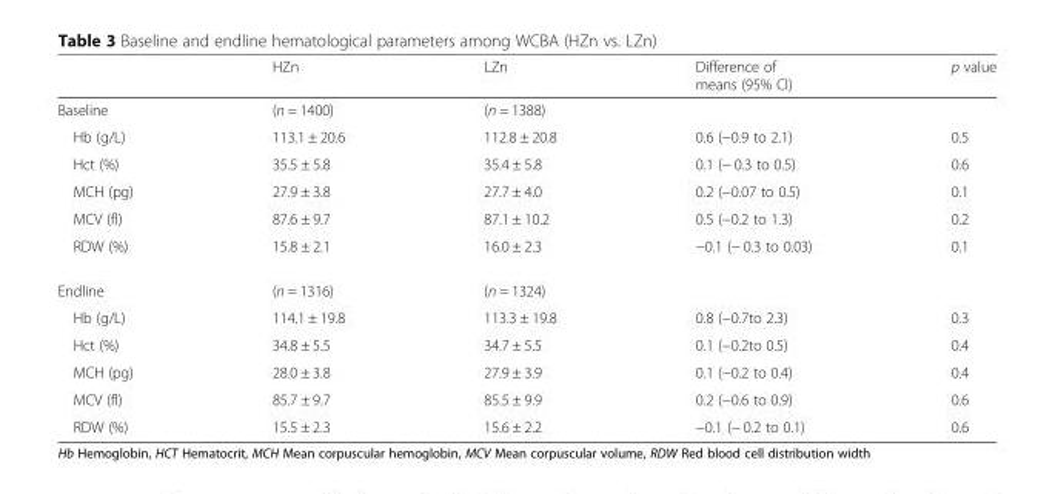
<table><thead><tr><td></td><td>HZn</td><td>LZn</td><td>Difference of means (95% CI)</td><td>p value</td></tr></thead><tbody><tr><td>Baseline</td><td>(n = 1400)</td><td>(n = 1388)</td><td></td><td></td></tr><tr><td>Hb (g/L)</td><td>113.1 ± 20.6</td><td>112.8 ± 20.8</td><td>0.6 (−0.9 to 2.1)</td><td>0.5</td></tr><tr><td>Hct (%)</td><td>35.5 ± 5.8</td><td>35.4 ± 5.8</td><td>0.1 (− 0.3 to 0.5)</td><td>0.6</td></tr><tr><td>MCH (pg)</td><td>27.9 ± 3.8</td><td>27.7 ± 4.0</td><td>0.2 (−0.07 to 0.5)</td><td>0.1</td></tr><tr><td>MCV (fl)</td><td>87.6 ± 9.7</td><td>87.1 ± 10.2</td><td>0.5 (−0.2 to 1.3)</td><td>0.2</td></tr><tr><td>RDW (%)</td><td>15.8 ± 2.1</td><td>16.0 ± 2.3</td><td>−0.1 (− 0.3 to 0.03)</td><td>0.1</td></tr><tr><td>Endline</td><td>(n = 1316)</td><td>(n = 1324)</td><td></td><td></td></tr><tr><td>Hb (g/L)</td><td>114.1 ± 19.8</td><td>113.3 ± 19.8</td><td>0.8 (−0.7to 2.3)</td><td>0.3</td></tr><tr><td>Hct (%)</td><td>34.8 ± 5.5</td><td>34.7 ± 5.5</td><td>0.1 (−0.2to 0.5)</td><td>0.4</td></tr><tr><td>MCH (pg)</td><td>28.0 ± 3.8</td><td>27.9 ± 3.9</td><td>0.1 (−0.2 to 0.4)</td><td>0.4</td></tr><tr><td>MCV (fl)</td><td>85.7 ± 9.7</td><td>85.5 ± 9.9</td><td>0.2 (−0.6 to 0.9)</td><td>0.6</td></tr><tr><td>RDW (%)</td><td>15.5 ± 2.3</td><td>15.6 ± 2.2</td><td>−0.1 (− 0.2 to 0.1)</td><td>0.6</td></tr></tbody></table>